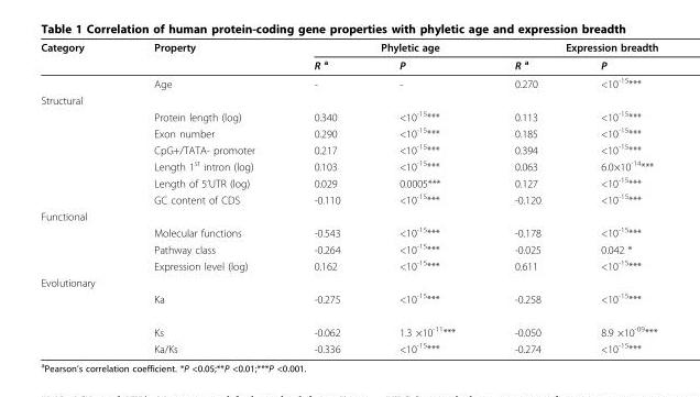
<table><thead><tr><td rowspan="2">Category</td><td rowspan="2">Property</td><td colspan="2">Phyletic age</td><td colspan="2">Expression breadth</td></tr><tr><td>R <sup>a</sup></td><td>P</td><td>R <sup>a</sup></td><td>P</td></tr></thead><tbody><tr><td></td><td>Age</td><td>-</td><td>-</td><td>0.270</td><td>&lt;10<sup>-15</sup>***</td></tr><tr><td colspan="6">Structural</td></tr><tr><td></td><td>Protein length (log)</td><td>0.340</td><td>&lt;10<sup>-15</sup>***</td><td>0.113</td><td>&lt;10<sup>-15</sup>***</td></tr><tr><td></td><td>Exon number</td><td>0.290</td><td>&lt;10<sup>-15</sup>***</td><td>0.185</td><td>&lt;10<sup>-15</sup>***</td></tr><tr><td></td><td>CpG+/TATA- promoter</td><td>0.217</td><td>&lt;10<sup>-15</sup>***</td><td>0.394</td><td>&lt;10<sup>-15</sup>***</td></tr><tr><td></td><td>Length 1<sup>st</sup> intron (log)</td><td>0.103</td><td>&lt;10<sup>-15</sup>***</td><td>0.063</td><td>6.0×10<sup>-14</sup>***</td></tr><tr><td></td><td>Length of 5’UTR (log)</td><td>0.029</td><td>0.0005***</td><td>0.127</td><td>&lt;10<sup>-15</sup>***</td></tr><tr><td></td><td>GC content of CDS</td><td>-0.110</td><td>&lt;10<sup>-15</sup>***</td><td>-0.120</td><td>&lt;10<sup>-15</sup>***</td></tr><tr><td colspan="6">Functional</td></tr><tr><td></td><td>Molecular functions</td><td>-0.543</td><td>&lt;10<sup>-15</sup>***</td><td>-0.178</td><td>&lt;10<sup>-15</sup>***</td></tr><tr><td></td><td>Pathway class</td><td>-0.264</td><td>&lt;10<sup>-15</sup>***</td><td>-0.025</td><td>0.042 *</td></tr><tr><td></td><td>Expression level (log)</td><td>0.162</td><td>&lt;10<sup>-15</sup>***</td><td>0.611</td><td>&lt;10<sup>-15</sup>***</td></tr><tr><td colspan="6">Evolutionary</td></tr><tr><td></td><td>Ka</td><td>-0.275</td><td>&lt;10<sup>-15</sup>***</td><td>-0.258</td><td>&lt;10<sup>-15</sup>***</td></tr><tr><td></td><td>Ks</td><td>-0.062</td><td>1.3 ×10<sup>-11</sup>***</td><td>-0.050</td><td>8.9 ×10<sup>-09</sup>***</td></tr><tr><td></td><td>Ka/Ks</td><td>-0.336</td><td>&lt;10<sup>-15</sup>***</td><td>-0.274</td><td>&lt;10<sup>-15</sup>***</td></tr></tbody></table>